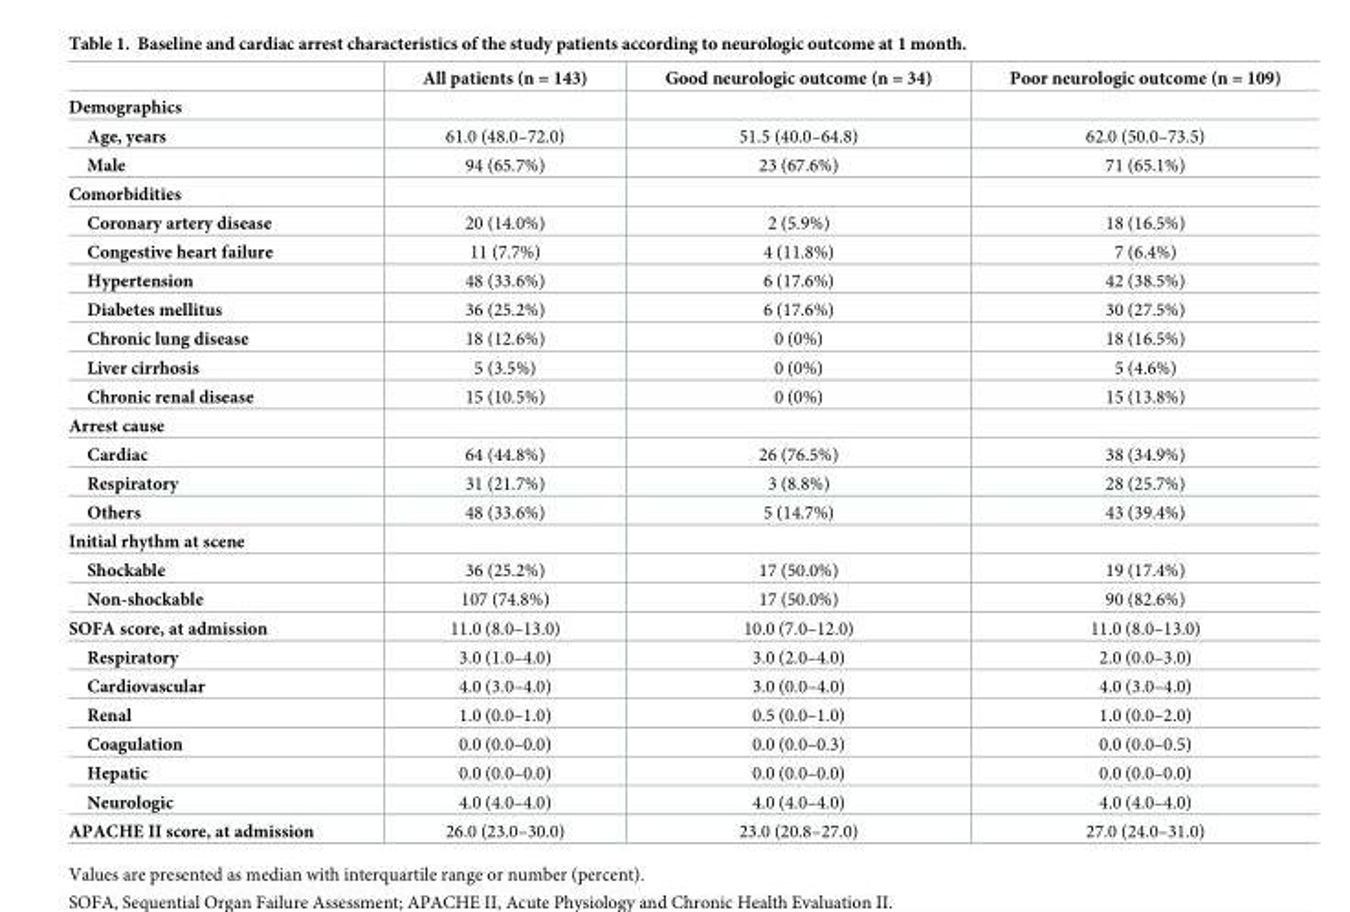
<table><thead><tr><td></td><td>All patients (n = 143)</td><td>Good neurologic outcome (n = 34)</td><td>Poor neurologic outcome (n = 109)</td></tr></thead><tbody><tr><td colspan="4">Demographics</td></tr><tr><td>Age, years</td><td>61.0 (48.0–72.0)</td><td>51.5 (40.0–64.8)</td><td>62.0 (50.0–73.5)</td></tr><tr><td>Male</td><td>94 (65.7%)</td><td>23 (67.6%)</td><td>71 (65.1%)</td></tr><tr><td colspan="4">Comorbidities</td></tr><tr><td>Coronary artery disease</td><td>20 (14.0%)</td><td>2 (5.9%)</td><td>18 (16.5%)</td></tr><tr><td>Congestive heart failure</td><td>11 (7.7%)</td><td>4 (11.8%)</td><td>7 (6.4%)</td></tr><tr><td>Hypertension</td><td>48 (33.6%)</td><td>6 (17.6%)</td><td>42 (38.5%)</td></tr><tr><td>Diabetes mellitus</td><td>36 (25.2%)</td><td>6 (17.6%)</td><td>30 (27.5%)</td></tr><tr><td>Chronic lung disease</td><td>18 (12.6%)</td><td>0 (0%)</td><td>18 (16.5%)</td></tr><tr><td>Liver cirrhosis</td><td>5 (3.5%)</td><td>0 (0%)</td><td>5 (4.6%)</td></tr><tr><td>Chronic renal disease</td><td>15 (10.5%)</td><td>0 (0%)</td><td>15 (13.8%)</td></tr><tr><td colspan="4">Arrest cause</td></tr><tr><td>Cardiac</td><td>64 (44.8%)</td><td>26 (76.5%)</td><td>38 (34.9%)</td></tr><tr><td>Respiratory</td><td>31 (21.7%)</td><td>3 (8.8%)</td><td>28 (25.7%)</td></tr><tr><td>Others</td><td>48 (33.6%)</td><td>5 (14.7%)</td><td>43 (39.4%)</td></tr><tr><td colspan="4">Initial rhythm at scene</td></tr><tr><td>Shockable</td><td>36 (25.2%)</td><td>17 (50.0%)</td><td>19 (17.4%)</td></tr><tr><td>Non-shockable</td><td>107 (74.8%)</td><td>17 (50.0%)</td><td>90 (82.6%)</td></tr><tr><td>SOFA score, at admission</td><td>11.0 (8.0–13.0)</td><td>10.0 (7.0–12.0)</td><td>11.0 (8.0–13.0)</td></tr><tr><td>Respiratory</td><td>3.0 (1.0–4.0)</td><td>3.0 (2.0–4.0)</td><td>2.0 (0.0–3.0)</td></tr><tr><td>Cardiovascular</td><td>4.0 (3.0–4.0)</td><td>3.0 (0.0–4.0)</td><td>4.0 (3.0–4.0)</td></tr><tr><td>Renal</td><td>1.0 (0.0–1.0)</td><td>0.5 (0.0–1.0)</td><td>1.0 (0.0–2.0)</td></tr><tr><td>Coagulation</td><td>0.0 (0.0–0.0)</td><td>0.0 (0.0–0.3)</td><td>0.0 (0.0–0.5)</td></tr><tr><td>Hepatic</td><td>0.0 (0.0–0.0)</td><td>0.0 (0.0–0.0)</td><td>0.0 (0.0–0.0)</td></tr><tr><td>Neurologic</td><td>4.0 (4.0–4.0)</td><td>4.0 (4.0–4.0)</td><td>4.0 (4.0–4.0)</td></tr><tr><td>APACHE II score, at admission</td><td>26.0 (23.0–30.0)</td><td>23.0 (20.8–27.0)</td><td>27.0 (24.0–31.0)</td></tr></tbody></table>